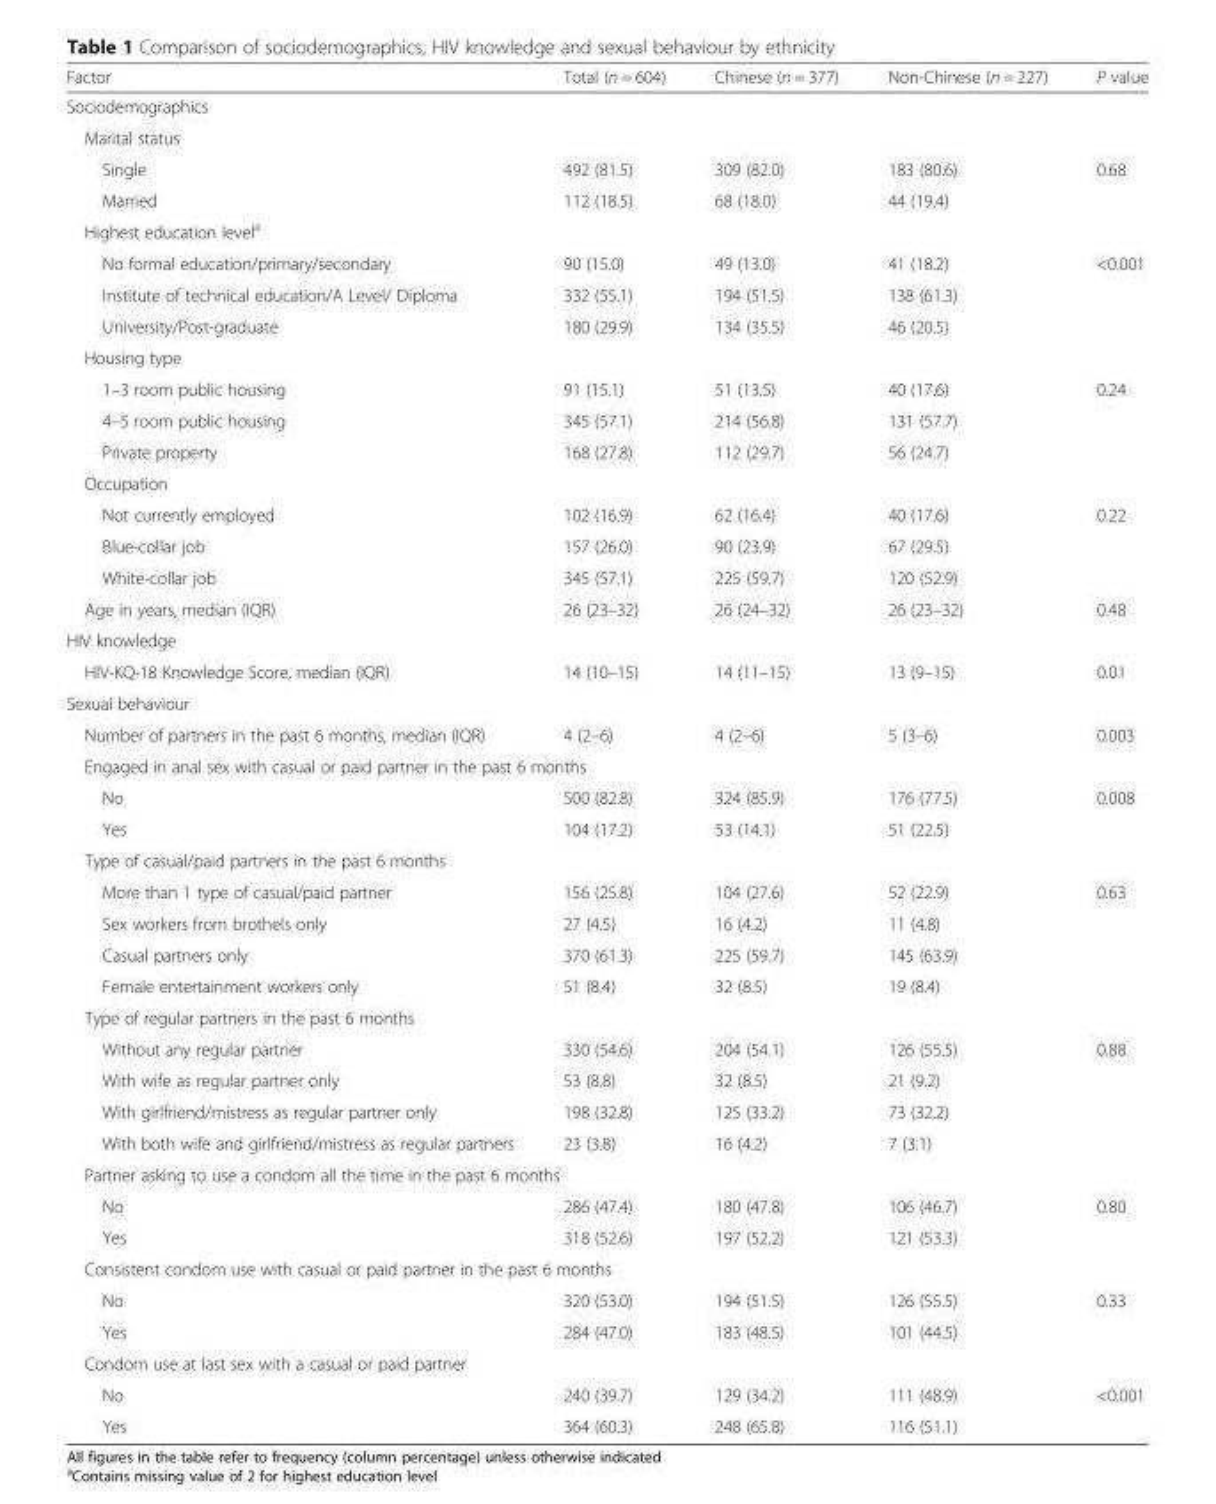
<table><thead><tr><td>Factor</td><td>Total (n = 604)</td><td>Chinese (n = 377)</td><td>Non-Chinese (n = 227)</td><td>P value</td></tr></thead><tbody><tr><td colspan="5">Sociodemographics</td></tr><tr><td colspan="5">Marital status</td></tr><tr><td>Single</td><td>492 (81.5)</td><td>309 (82.0)</td><td>183 (80.6)</td><td rowspan="2">0.68</td></tr><tr><td>Married</td><td>112 (18.5)</td><td>68 (18.0)</td><td>44 (19.4)</td></tr><tr><td colspan="5">Highest education level<sup>a</sup></td></tr><tr><td>No formal education/primary/secondary</td><td>90 (15.0)</td><td>49 (13.0)</td><td>41 (18.2)</td><td rowspan="3">&lt;0.001</td></tr><tr><td>Institute of technical education/A Level/ Diploma</td><td>332 (55.1)</td><td>194 (51.5)</td><td>138 (61.3)</td></tr><tr><td>University/Post-graduate</td><td>180 (29.9)</td><td>134 (35.5)</td><td>46 (20.5)</td></tr><tr><td colspan="5">Housing type</td></tr><tr><td>1–3 room public housing</td><td>91 (15.1)</td><td>51 (13.5)</td><td>40 (17.6)</td><td rowspan="3">0.24</td></tr><tr><td>4–5 room public housing</td><td>345 (57.1)</td><td>214 (56.8)</td><td>131 (57.7)</td></tr><tr><td>Private property</td><td>168 (27.8)</td><td>112 (29.7)</td><td>56 (24.7)</td></tr><tr><td colspan="5">Occupation</td></tr><tr><td>Not currently employed</td><td>102 (16.9)</td><td>62 (16.4)</td><td>40 (17.6)</td><td rowspan="3">0.22</td></tr><tr><td>Blue-collar job</td><td>157 (26.0)</td><td>90 (23.9)</td><td>67 (29.5)</td></tr><tr><td>White-collar job</td><td>345 (57.1)</td><td>225 (59.7)</td><td>120 (52.9)</td></tr><tr><td>Age in years, median (IQR)</td><td>26 (23–32)</td><td>26 (24–32)</td><td>26 (23–32)</td><td>0.48</td></tr><tr><td colspan="5">HIV knowledge</td></tr><tr><td>HIV-KQ-18 Knowledge Score, median (IQR)</td><td>14 (10–15)</td><td>14 (11–15)</td><td>13 (9–15)</td><td>0.01</td></tr><tr><td colspan="5">Sexual behaviour</td></tr><tr><td>Number of partners in the past 6 months, median (IQR)</td><td>4 (2–6)</td><td>4 (2–6)</td><td>5 (3–6)</td><td>0.003</td></tr><tr><td colspan="5">Engaged in anal sex with casual or paid partner in the past 6 months</td></tr><tr><td>No</td><td>500 (82.8)</td><td>324 (85.9)</td><td>176 (77.5)</td><td rowspan="2">0.008</td></tr><tr><td>Yes</td><td>104 (17.2)</td><td>53 (14.1)</td><td>51 (22.5)</td></tr><tr><td colspan="5">Type of casual/paid partners in the past 6 months</td></tr><tr><td>More than 1 type of casual/paid partner</td><td>156 (25.8)</td><td>104 (27.6)</td><td>52 (22.9)</td><td rowspan="4">0.63</td></tr><tr><td>Sex workers from brothels only</td><td>27 (4.5)</td><td>16 (4.2)</td><td>11 (4.8)</td></tr><tr><td>Casual partners only</td><td>370 (61.3)</td><td>225 (59.7)</td><td>145 (63.9)</td></tr><tr><td>Female entertainment workers only</td><td>51 (8.4)</td><td>32 (8.5)</td><td>19 (8.4)</td></tr><tr><td colspan="5">Type of regular partners in the past 6 months</td></tr><tr><td>Without any regular partner</td><td>330 (54.6)</td><td>204 (54.1)</td><td>126 (55.5)</td><td rowspan="4">0.88</td></tr><tr><td>With wife as regular partner only</td><td>53 (8.8)</td><td>32 (8.5)</td><td>21 (9.2)</td></tr><tr><td>With girlfriend/mistress as regular partner only</td><td>198 (32.8)</td><td>125 (33.2)</td><td>73 (32.2)</td></tr><tr><td>With both wife and girlfriend/mistress as regular partners</td><td>23 (3.8)</td><td>16 (4.2)</td><td>7 (3.1)</td></tr><tr><td colspan="5">Partner asking to use a condom all the time in the past 6 months</td></tr><tr><td>No</td><td>286 (47.4)</td><td>180 (47.8)</td><td>106 (46.7)</td><td rowspan="2">0.80</td></tr><tr><td>Yes</td><td>318 (52.6)</td><td>197 (52.2)</td><td>121 (53.3)</td></tr><tr><td colspan="5">Consistent condom use with casual or paid partner in the past 6 months</td></tr><tr><td>No</td><td>320 (53.0)</td><td>194 (51.5)</td><td>126 (55.5)</td><td rowspan="2">0.33</td></tr><tr><td>Yes</td><td>284 (47.0)</td><td>183 (48.5)</td><td>101 (44.5)</td></tr><tr><td colspan="5">Condom use at last sex with a casual or paid partner</td></tr><tr><td>No</td><td>240 (39.7)</td><td>129 (34.2)</td><td>111 (48.9)</td><td rowspan="2">&lt;0.001</td></tr><tr><td>Yes</td><td>364 (60.3)</td><td>248 (65.8)</td><td>116 (51.1)</td></tr></tbody></table>